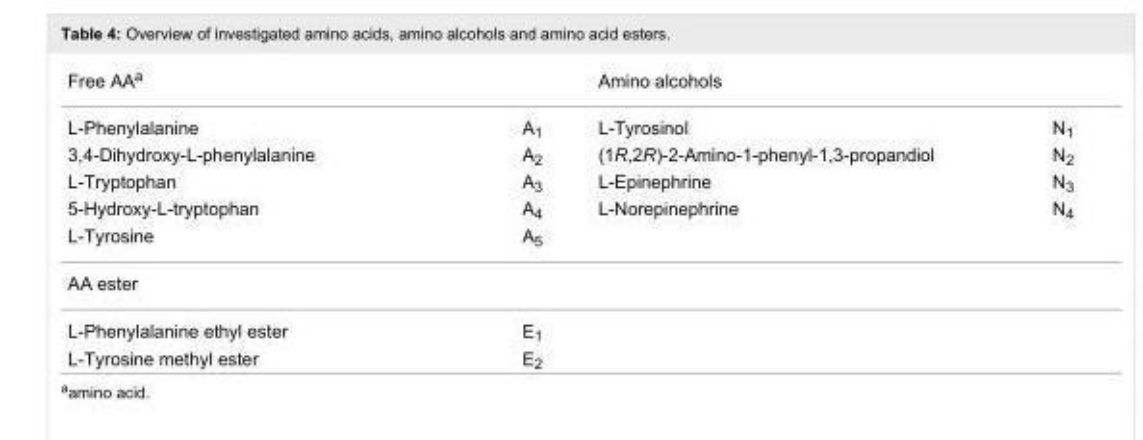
<table><tbody><tr><td>Free AA<sup>a</sup></td><td></td><td>Amino alcohols</td><td></td></tr><tr><td>L-Phenylalanine</td><td>A<sub>1</sub></td><td>L-Tyrosinol</td><td>N<sub>1</sub></td></tr><tr><td>3,4-Dihydroxy-L-phenylalanine</td><td>A<sub>2</sub></td><td>(1R,2R)-2-Amino-1-phenyl-1,3-propandiol</td><td>N<sub>2</sub></td></tr><tr><td>L-Tryptophan</td><td>A<sub>3</sub></td><td>L-Epinephrine</td><td>N<sub>3</sub></td></tr><tr><td>5-Hydroxy-L-tryptophan</td><td>A<sub>4</sub></td><td>L-Norepinephrine</td><td>N<sub>4</sub></td></tr><tr><td>L-Tyrosine</td><td>A<sub>5</sub></td><td></td><td></td></tr><tr><td colspan="4">AA ester</td></tr><tr><td>L-Phenylalanine ethyl ester</td><td>E<sub>1</sub></td><td></td><td></td></tr><tr><td>L-Tyrosine methyl ester</td><td>E<sub>2</sub></td><td></td><td></td></tr></tbody></table>